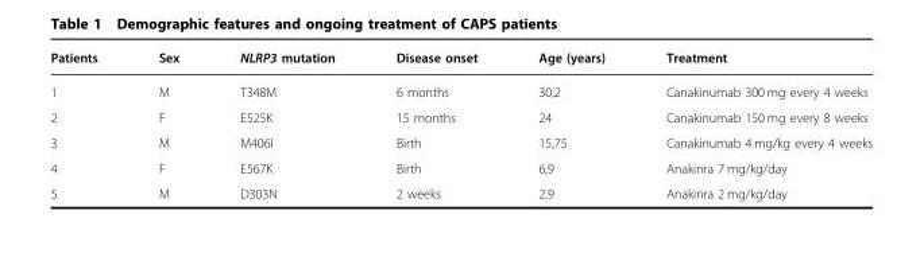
<table><thead><tr><td>Patients</td><td>Sex</td><td>NLRP3 mutation</td><td>Disease onset</td><td>Age (years)</td><td>Treatment</td></tr></thead><tbody><tr><td>1</td><td>M</td><td>T348M</td><td>6 months</td><td>30,2</td><td>Canakinumab 300 mg every 4 weeks</td></tr><tr><td>2</td><td>F</td><td>E525K</td><td>15 months</td><td>24</td><td>Canakinumab 150 mg every 8 weeks</td></tr><tr><td>3</td><td>M</td><td>M406I</td><td>Birth</td><td>15,75</td><td>Canakinumab 4 mg/kg every 4 weeks</td></tr><tr><td>4</td><td>F</td><td>E567K</td><td>Birth</td><td>6,9</td><td>Anakinra 7 mg/kg/day</td></tr><tr><td>5</td><td>M</td><td>D303N</td><td>2 weeks</td><td>2,9</td><td>Anakinra 2 mg/kg/day</td></tr></tbody></table>